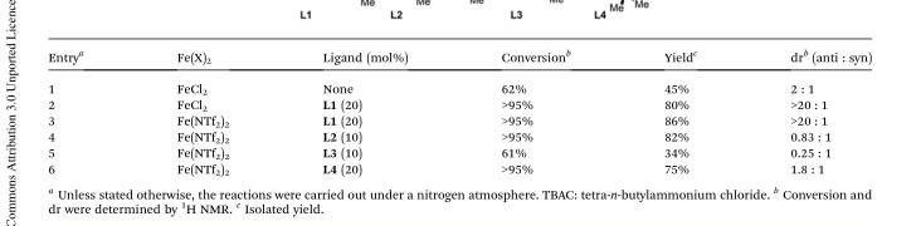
<table><thead><tr><td>Entry<sup>a</sup></td><td>Fe(X)<sub>2</sub></td><td>Ligand (mol%)</td><td>Conversion<sup>b</sup></td><td>Yield<sup>c</sup></td><td>dr<sup>b</sup> (anti : syn)</td></tr></thead><tbody><tr><td>1</td><td>FeCl<sub>2</sub></td><td>None</td><td>62%</td><td>45%</td><td>2 : 1</td></tr><tr><td>2</td><td>FeCl<sub>2</sub></td><td>L1 (20)</td><td>&gt;95%</td><td>80%</td><td>&gt;20 : 1</td></tr><tr><td>3</td><td>Fe(NTf<sub>2</sub>)<sub>2</sub></td><td>L1 (20)</td><td>&gt;95%</td><td>86%</td><td>&gt;20 : 1</td></tr><tr><td>4</td><td>Fe(NTf<sub>2</sub>)<sub>2</sub></td><td>L2 (10)</td><td>&gt;95%</td><td>82%</td><td>0.83 : 1</td></tr><tr><td>5</td><td>Fe(NTf<sub>2</sub>)<sub>2</sub></td><td>L3 (10)</td><td>61%</td><td>34%</td><td>0.25 : 1</td></tr><tr><td>6</td><td>Fe(NTf<sub>2</sub>)<sub>2</sub></td><td>L4 (20)</td><td>&gt;95%</td><td>75%</td><td>1.8 : 1</td></tr></tbody></table>